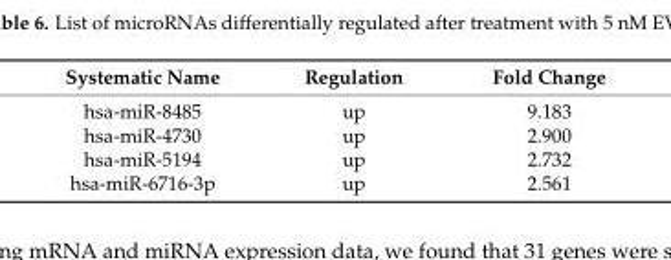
<table><thead><tr><td>Systematic Name</td><td>Regulation</td><td>Fold Change</td></tr></thead><tbody><tr><td>hsa-miR-8485</td><td>up</td><td>9.183</td></tr><tr><td>hsa-miR-4730</td><td>up</td><td>2.900</td></tr><tr><td>hsa-miR-5194</td><td>up</td><td>2.732</td></tr><tr><td>hsa-miR-6716-3p</td><td>up</td><td>2.561</td></tr></tbody></table>